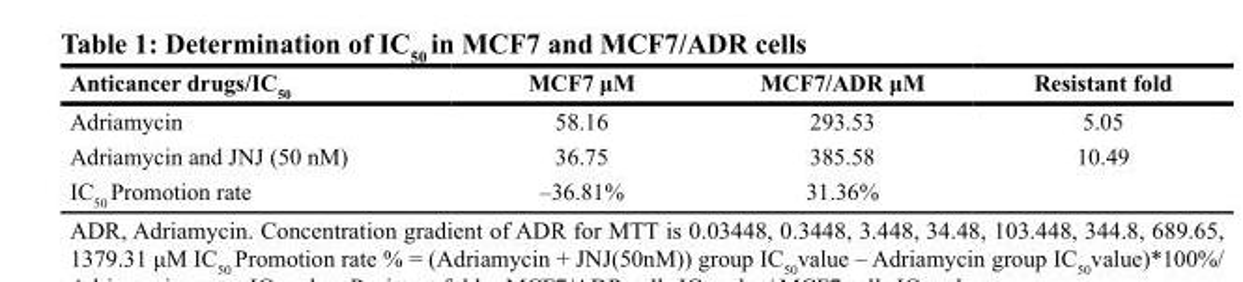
<table><thead><tr><td>Anticancer drugs/IC<sub>50</sub></td><td>MCF7 μM</td><td>MCF7/ADR μM</td><td>Resistant fold</td></tr></thead><tbody><tr><td>Adriamycin</td><td>58.16</td><td>293.53</td><td>5.05</td></tr><tr><td>Adriamycin and JNJ (50 nM)</td><td>36.75</td><td>385.58</td><td>10.49</td></tr><tr><td>IC<sub>50</sub> Promotion rate</td><td>–36.81%</td><td>31.36%</td><td></td></tr></tbody></table>